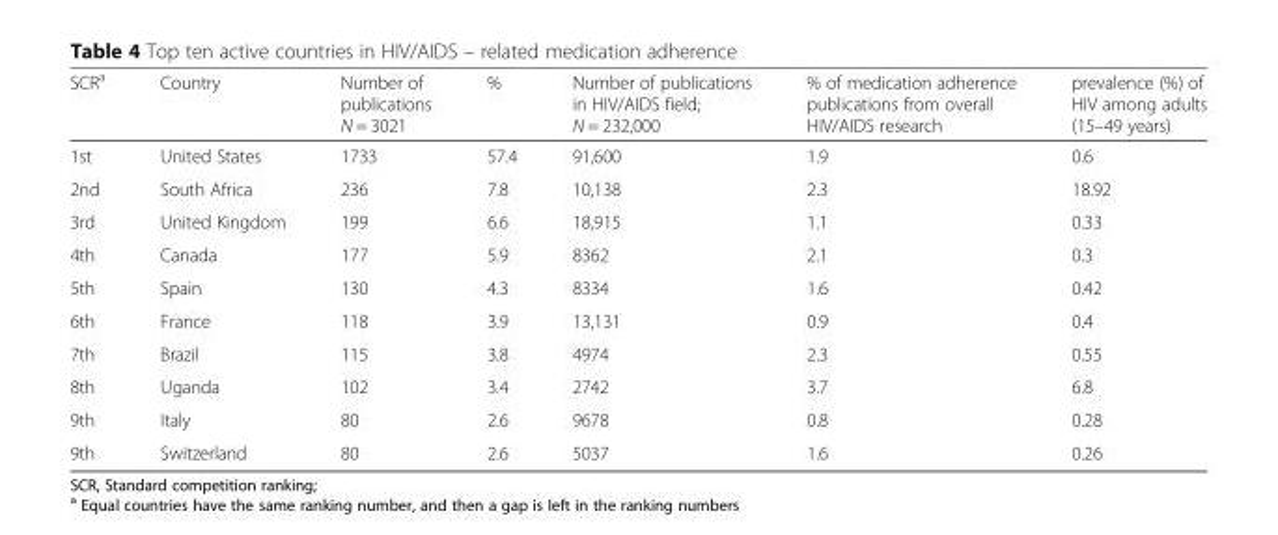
<table><thead><tr><td>SCR<sup>a</sup></td><td>Country</td><td>Number of publications N = 3021</td><td>%</td><td>Number of publications in HIV/AIDS field; N = 232,000</td><td>% of medication adherence publications from overall HIV/AIDS research</td><td>prevalence (%) of HIV among adults (15–49 years)</td></tr></thead><tbody><tr><td>1st</td><td>United States</td><td>1733</td><td>57.4</td><td>91,600</td><td>1.9</td><td>0.6</td></tr><tr><td>2nd</td><td>South Africa</td><td>236</td><td>7.8</td><td>10,138</td><td>2.3</td><td>18.92</td></tr><tr><td>3rd</td><td>United Kingdom</td><td>199</td><td>6.6</td><td>18,915</td><td>1.1</td><td>0.33</td></tr><tr><td>4th</td><td>Canada</td><td>177</td><td>5.9</td><td>8362</td><td>2.1</td><td>0.3</td></tr><tr><td>5th</td><td>Spain</td><td>130</td><td>4.3</td><td>8334</td><td>1.6</td><td>0.42</td></tr><tr><td>6th</td><td>France</td><td>118</td><td>3.9</td><td>13,131</td><td>0.9</td><td>0.4</td></tr><tr><td>7th</td><td>Brazil</td><td>115</td><td>3.8</td><td>4974</td><td>2.3</td><td>0.55</td></tr><tr><td>8th</td><td>Uganda</td><td>102</td><td>3.4</td><td>2742</td><td>3.7</td><td>6.8</td></tr><tr><td>9th</td><td>Italy</td><td>80</td><td>2.6</td><td>9678</td><td>0.8</td><td>0.28</td></tr><tr><td>9th</td><td>Switzerland</td><td>80</td><td>2.6</td><td>5037</td><td>1.6</td><td>0.26</td></tr></tbody></table>